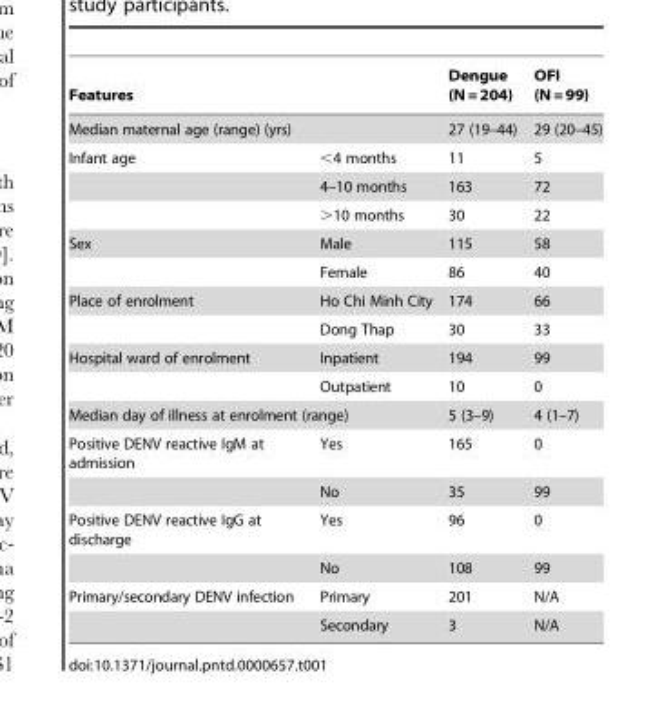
<table><thead><tr><td rowspan="2" colspan="2">Features Median maternal age (range) (yrs)</td><td rowspan="3">Dengue (N = 204) 27 (19–44) 11</td><td rowspan="3">OFI (N = 99) 29 (20–45) 5</td></tr><tr></tr><tr><td>Infant age</td><td>&lt;4 months</td></tr></thead><tbody><tr><td></td><td>4–10 months</td><td>163</td><td>72</td></tr><tr><td></td><td>&gt;10 months</td><td>30</td><td>22</td></tr><tr><td rowspan="2">Sex</td><td>Male</td><td>115</td><td>58</td></tr><tr><td>Female</td><td>86</td><td>40</td></tr><tr><td rowspan="2">Place of enrolment</td><td>Ho Chi Minh City</td><td>174</td><td>66</td></tr><tr><td>Dong Thap</td><td>30</td><td>33</td></tr><tr><td rowspan="2">Hospital ward of enrolment</td><td>Inpatient</td><td>194</td><td>99</td></tr><tr><td>Outpatient</td><td>10</td><td>0</td></tr><tr><td colspan="2">Median day of illness at enrolment (range)</td><td>5 (3–9)</td><td>4 (1–7)</td></tr><tr><td rowspan="2">Positive DENV reactive IgM at admission</td><td>Yes</td><td>165</td><td>0</td></tr><tr><td>No</td><td>35</td><td>99</td></tr><tr><td rowspan="2">Positive DENV reactive IgG at discharge</td><td>Yes</td><td>96</td><td>0</td></tr><tr><td>No</td><td>108</td><td>99</td></tr><tr><td rowspan="2">Primary/secondary DENV infection</td><td>Primary</td><td>201</td><td>N/A</td></tr><tr><td>Secondary</td><td>3</td><td>N/A</td></tr></tbody></table>